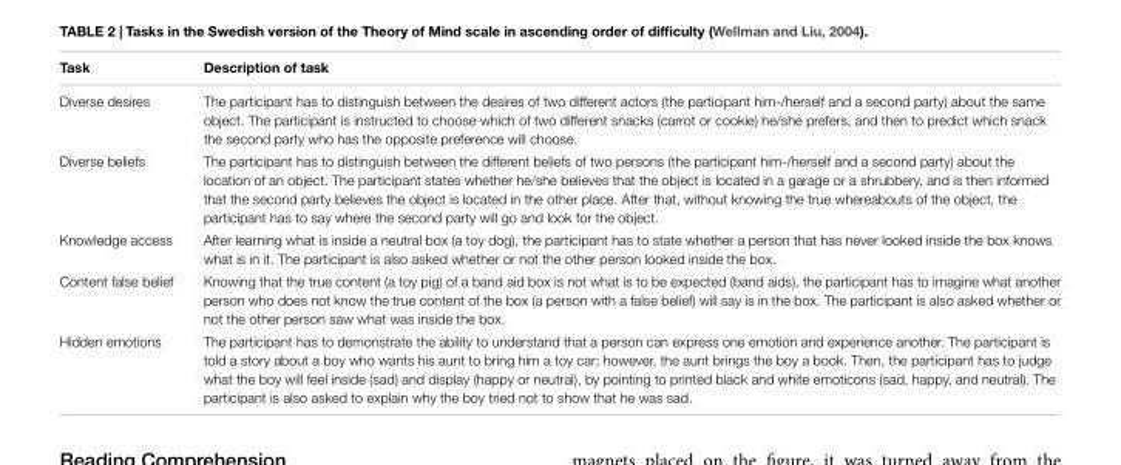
<table><thead><tr><td>Task</td><td>Description of task</td></tr></thead><tbody><tr><td>Diverse desires</td><td>The participant has to distinguish between the desires of two different actors (the participant him-/herself and a second party) about the same object. The participant is instructed to choose which of two different snacks (carrot or cookie) he/she prefers, and then to predict which snack the second party who has the opposite preference will choose.</td></tr><tr><td>Diverse beliefs</td><td>The participant has to distinguish between the different beliefs of two persons (the participant him-/herself and a second party) about the location of an object. The participant states whether he/she believes that the object is located in a garage or a shrubbery, and is then informed that the second party believes the object is located in the other place. After that, without knowing the true whereabouts of the object, the participant has to say where the second party will go and look for the object.</td></tr><tr><td>Knowledge access</td><td>After learning what is inside a neutral box (a toy dog), the participant has to state whether a person that has never looked inside the box knows what is in it. The participant is also asked whether or not the other person looked inside the box.</td></tr><tr><td>Content false belief</td><td>Knowing that the true content (a toy pig) of a band aid box is not what is to be expected (band aids), the participant has to imagine what another person who does not know the true content of the box (a person with a false belief) will say is in the box. The participant is also asked whether or not the other person saw what was inside the box.</td></tr><tr><td>Hidden emotions</td><td>The participant has to demonstrate the ability to understand that a person can express one emotion and experience another. The participant is told a story about a boy who wants his aunt to bring him a toy car; however, the aunt brings the boy a book. Then, the participant has to judge what the boy will feel inside (sad) and display (happy or neutral), by pointing to printed black and white emoticons (sad, happy, and neutral). The participant is also asked to explain why the boy tried not to show that he was sad.</td></tr></tbody></table>